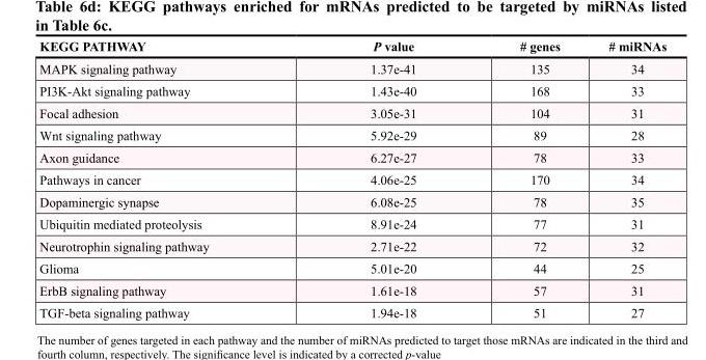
<table><thead><tr><td>KEGG PATHWAY</td><td>P value</td><td># genes</td><td># miRNAs</td></tr></thead><tbody><tr><td>MAPK signaling pathway</td><td>1.37e-41</td><td>135</td><td>34</td></tr><tr><td>PI3K-Akt signaling pathway</td><td>1.43e-40</td><td>168</td><td>33</td></tr><tr><td>Focal adhesion</td><td>3.05e-31</td><td>104</td><td>31</td></tr><tr><td>Wnt signaling pathway</td><td>5.92e-29</td><td>89</td><td>28</td></tr><tr><td>Axon guidance</td><td>6.27e-27</td><td>78</td><td>33</td></tr><tr><td>Pathways in cancer</td><td>4.06e-25</td><td>170</td><td>34</td></tr><tr><td>Dopaminergic synapse</td><td>6.08e-25</td><td>78</td><td>35</td></tr><tr><td>Ubiquitin mediated proteolysis</td><td>8.91e-24</td><td>77</td><td>31</td></tr><tr><td>Neurotrophin signaling pathway</td><td>2.71e-22</td><td>72</td><td>32</td></tr><tr><td>Glioma</td><td>5.01e-20</td><td>44</td><td>25</td></tr><tr><td>ErbB signaling pathway</td><td>1.61e-18</td><td>57</td><td>31</td></tr><tr><td>TGF-beta signaling pathway</td><td>1.94e-18</td><td>51</td><td>27</td></tr></tbody></table>